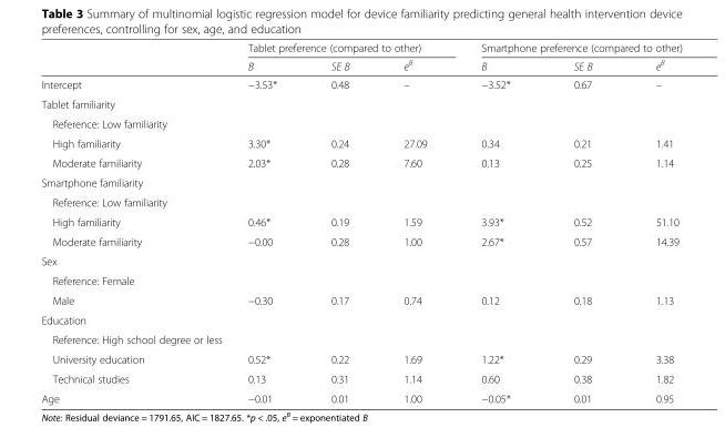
<table><thead><tr><td rowspan="2"></td><td colspan="3">Tablet preference (compared to other)</td><td colspan="3">Smartphone preference (compared to other)</td></tr><tr><td>B</td><td>SE B</td><td>e<sup>B</sup></td><td>B</td><td>SE B</td><td>e<sup>B</sup></td></tr></thead><tbody><tr><td>Intercept</td><td>−3.53*</td><td>0.48</td><td>–</td><td>−3.52*</td><td>0.67</td><td>–</td></tr><tr><td colspan="7">Tablet familiarity</td></tr><tr><td colspan="7">Reference: Low familiarity</td></tr><tr><td>High familiarity</td><td>3.30*</td><td>0.24</td><td>27.09</td><td>0.34</td><td>0.21</td><td>1.41</td></tr><tr><td>Moderate familiarity</td><td>2.03*</td><td>0.28</td><td>7.60</td><td>0.13</td><td>0.25</td><td>1.14</td></tr><tr><td colspan="7">Smartphone familiarity</td></tr><tr><td colspan="7">Reference: Low familiarity</td></tr><tr><td>High familiarity</td><td>0.46*</td><td>0.19</td><td>1.59</td><td>3.93*</td><td>0.52</td><td>51.10</td></tr><tr><td>Moderate familiarity</td><td>−0.00</td><td>0.28</td><td>1.00</td><td>2.67*</td><td>0.57</td><td>14.39</td></tr><tr><td colspan="7">Sex</td></tr><tr><td colspan="7">Reference: Female</td></tr><tr><td>Male</td><td>−0.30</td><td>0.17</td><td>0.74</td><td>0.12</td><td>0.18</td><td>1.13</td></tr><tr><td colspan="7">Education</td></tr><tr><td colspan="7">Reference: High school degree or less</td></tr><tr><td>University education</td><td>0.52*</td><td>0.22</td><td>1.69</td><td>1.22*</td><td>0.29</td><td>3.38</td></tr><tr><td>Technical studies</td><td>0.13</td><td>0.31</td><td>1.14</td><td>0.60</td><td>0.38</td><td>1.82</td></tr><tr><td>Age</td><td>−0.01</td><td>0.01</td><td>1.00</td><td>−0.05*</td><td>0.01</td><td>0.95</td></tr></tbody></table>